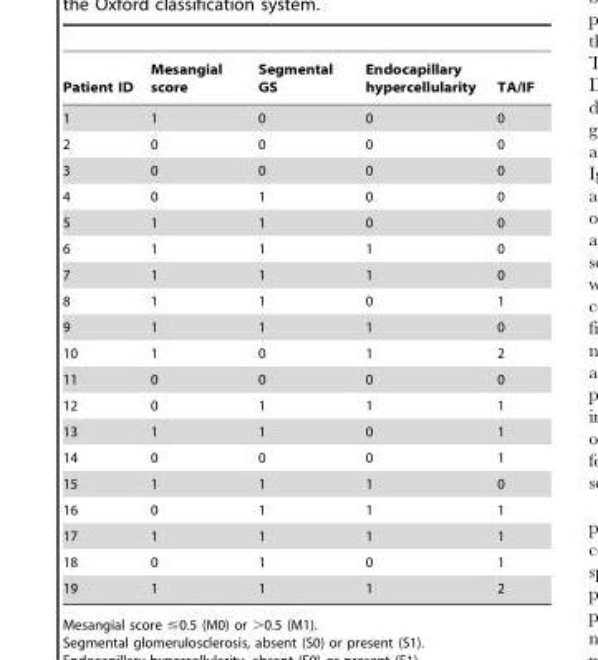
<table><thead><tr><td>Patient ID</td><td>Mesangial score</td><td>Segmental GS</td><td>Endocapillary hypercellularity</td><td>TA/IF</td></tr></thead><tbody><tr><td>1</td><td>1</td><td>0</td><td>0</td><td>0</td></tr><tr><td>2</td><td>0</td><td>0</td><td>0</td><td>0</td></tr><tr><td>3</td><td>0</td><td>0</td><td>0</td><td>0</td></tr><tr><td>4</td><td>0</td><td>1</td><td>0</td><td>0</td></tr><tr><td>5</td><td>1</td><td>1</td><td>0</td><td>0</td></tr><tr><td>6</td><td>1</td><td>1</td><td>1</td><td>0</td></tr><tr><td>7</td><td>1</td><td>1</td><td>1</td><td>0</td></tr><tr><td>8</td><td>1</td><td>1</td><td>0</td><td>1</td></tr><tr><td>9</td><td>1</td><td>1</td><td>1</td><td>0</td></tr><tr><td>10</td><td>1</td><td>0</td><td>1</td><td>2</td></tr><tr><td>11</td><td>0</td><td>0</td><td>0</td><td>0</td></tr><tr><td>12</td><td>0</td><td>1</td><td>1</td><td>1</td></tr><tr><td>13</td><td>1</td><td>1</td><td>0</td><td>1</td></tr><tr><td>14</td><td>0</td><td>0</td><td>0</td><td>1</td></tr><tr><td>15</td><td>1</td><td>1</td><td>1</td><td>0</td></tr><tr><td>16</td><td>0</td><td>1</td><td>1</td><td>1</td></tr><tr><td>17</td><td>1</td><td>1</td><td>1</td><td>1</td></tr><tr><td>18</td><td>0</td><td>1</td><td>0</td><td>1</td></tr><tr><td>19</td><td>1</td><td>1</td><td>1</td><td>2</td></tr></tbody></table>